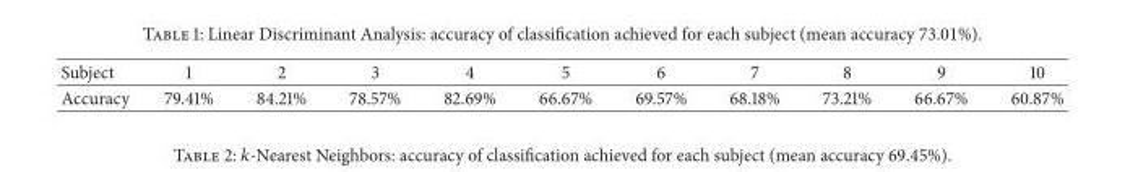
<table><thead><tr><td>Subject</td><td>1</td><td>2</td><td>3</td><td>4</td><td>5</td><td>6</td><td>7</td><td>8</td><td>9</td><td>10</td></tr></thead><tbody><tr><td>Accuracy</td><td>79.41%</td><td>84.21%</td><td>78.57%</td><td>82.69%</td><td>66.67%</td><td>69.57%</td><td>68.18%</td><td>73.21%</td><td>66.67%</td><td>60.87%</td></tr></tbody></table>